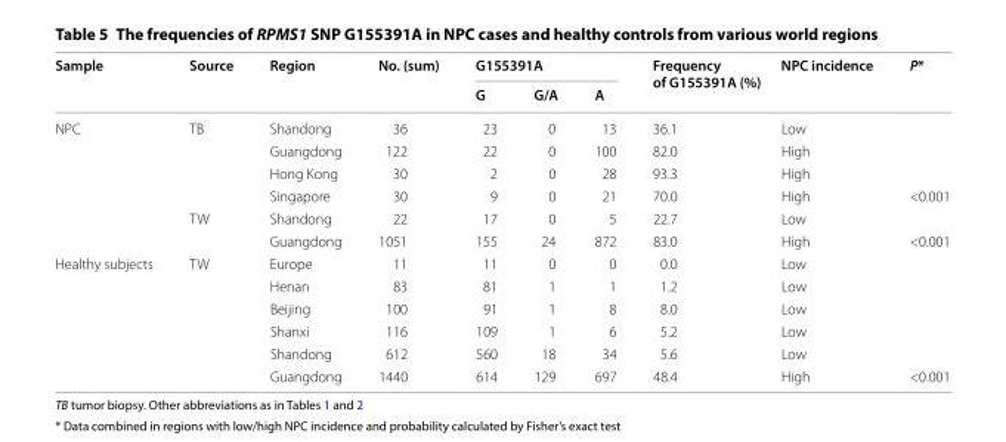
<table><thead><tr><td rowspan="2">Sample</td><td rowspan="2">Source</td><td rowspan="2">Region</td><td rowspan="2">No. (sum)</td><td colspan="3">G155391A</td><td rowspan="2">Frequency of G155391A (%)</td><td rowspan="2">NPC incidence</td><td rowspan="2">P*</td></tr><tr><td>G</td><td>G/A</td><td>A</td></tr></thead><tbody><tr><td rowspan="6">NPC</td><td>TB</td><td>Shandong</td><td>36</td><td>23</td><td>0</td><td>13</td><td>36.1</td><td>Low</td><td></td></tr><tr><td></td><td>Guangdong</td><td>122</td><td>22</td><td>0</td><td>100</td><td>82.0</td><td>High</td><td></td></tr><tr><td></td><td>Hong Kong</td><td>30</td><td>2</td><td>0</td><td>28</td><td>93.3</td><td>High</td><td></td></tr><tr><td></td><td>Singapore</td><td>30</td><td>9</td><td>0</td><td>21</td><td>70.0</td><td>High</td><td>&lt;0.001</td></tr><tr><td>TW</td><td>Shandong</td><td>22</td><td>17</td><td>0</td><td>5</td><td>22.7</td><td>Low</td><td></td></tr><tr><td></td><td>Guangdong</td><td>1051</td><td>155</td><td>24</td><td>872</td><td>83.0</td><td>High</td><td>&lt;0.001</td></tr><tr><td rowspan="6">Healthy subjects</td><td>TW</td><td>Europe</td><td>11</td><td>11</td><td>0</td><td>0</td><td>0.0</td><td>Low</td><td></td></tr><tr><td></td><td>Henan</td><td>83</td><td>81</td><td>1</td><td>1</td><td>1.2</td><td>Low</td><td></td></tr><tr><td></td><td>Beijing</td><td>100</td><td>91</td><td>1</td><td>8</td><td>8.0</td><td>Low</td><td></td></tr><tr><td></td><td>Shanxi</td><td>116</td><td>109</td><td>1</td><td>6</td><td>5.2</td><td>Low</td><td></td></tr><tr><td></td><td>Shandong</td><td>612</td><td>560</td><td>18</td><td>34</td><td>5.6</td><td>Low</td><td></td></tr><tr><td></td><td>Guangdong</td><td>1440</td><td>614</td><td>129</td><td>697</td><td>48.4</td><td>High</td><td>&lt;0.001</td></tr></tbody></table>